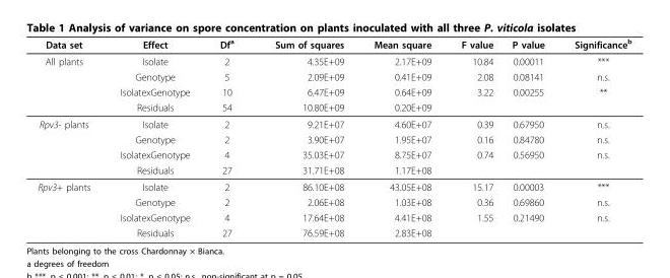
<table><thead><tr><td>Data set</td><td>Effect</td><td>Df<sup>a</sup></td><td>Sum of squares</td><td>Mean square</td><td>F value</td><td>P value</td><td>Significance<sup>b</sup></td></tr></thead><tbody><tr><td rowspan="4">All plants</td><td>Isolate</td><td>2</td><td>4.35E+09</td><td>2.17E+09</td><td>10.84</td><td>0.00011</td><td>***</td></tr><tr><td>Genotype</td><td>5</td><td>2.09E+09</td><td>0.41E+09</td><td>2.08</td><td>0.08141</td><td>n.s.</td></tr><tr><td>IsolatexGenotype</td><td>10</td><td>6.47E+09</td><td>0.64E+09</td><td>3.22</td><td>0.00255</td><td>**</td></tr><tr><td>Residuals</td><td>54</td><td>10.80E+09</td><td>0.20E+09</td><td></td><td></td><td></td></tr><tr><td rowspan="4">Rpv3- plants</td><td>Isolate</td><td>2</td><td>9.21E+07</td><td>4.60E+07</td><td>0.39</td><td>0.67950</td><td>n.s.</td></tr><tr><td>Genotype</td><td>2</td><td>3.90E+07</td><td>1.95E+07</td><td>0.16</td><td>0.84780</td><td>n.s.</td></tr><tr><td>IsolatexGenotype</td><td>4</td><td>35.03E+07</td><td>8.75E+07</td><td>0.74</td><td>0.56950</td><td>n.s.</td></tr><tr><td>Residuals</td><td>27</td><td>31.71E+08</td><td>1.17E+08</td><td></td><td></td><td></td></tr><tr><td rowspan="4">Rpv3+ plants</td><td>Isolate</td><td>2</td><td>86.10E+08</td><td>43.05E+08</td><td>15.17</td><td>0.00003</td><td>***</td></tr><tr><td>Genotype</td><td>2</td><td>2.06E+08</td><td>1.03E+08</td><td>0.36</td><td>0.69860</td><td>n.s.</td></tr><tr><td>IsolatexGenotype</td><td>4</td><td>17.64E+08</td><td>4.41E+08</td><td>1.55</td><td>0.21490</td><td>n.s.</td></tr><tr><td>Residuals</td><td>27</td><td>76.59E+08</td><td>2.83E+08</td><td></td><td></td><td></td></tr></tbody></table>